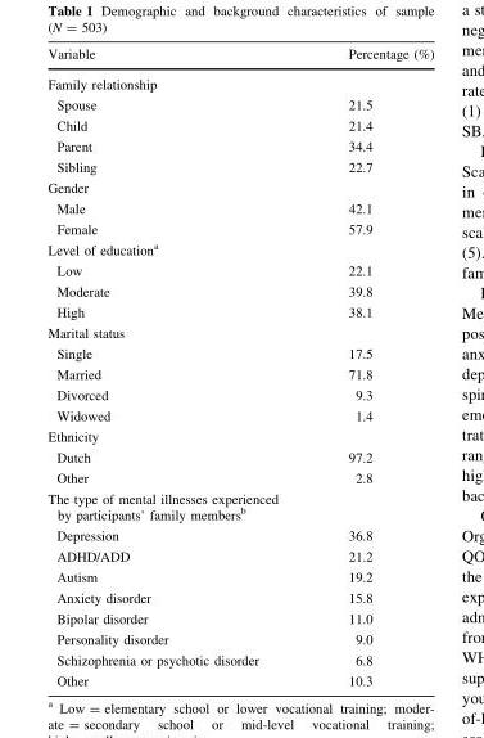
<table><thead><tr><td>Variable</td><td>Percentage (%)</td></tr></thead><tbody><tr><td colspan="2">Family relationship</td></tr><tr><td>Spouse</td><td>21.5</td></tr><tr><td>Child</td><td>21.4</td></tr><tr><td>Parent</td><td>34.4</td></tr><tr><td>Sibling</td><td>22.7</td></tr><tr><td colspan="2">Gender</td></tr><tr><td>Male</td><td>42.1</td></tr><tr><td>Female</td><td>57.9</td></tr><tr><td colspan="2">Level of education<sup>a</sup></td></tr><tr><td>Low</td><td>22.1</td></tr><tr><td>Moderate</td><td>39.8</td></tr><tr><td>High</td><td>38.1</td></tr><tr><td colspan="2">Marital status</td></tr><tr><td>Single</td><td>17.5</td></tr><tr><td>Married</td><td>71.8</td></tr><tr><td>Divorced</td><td>9.3</td></tr><tr><td>Widowed</td><td>1.4</td></tr><tr><td colspan="2">Ethnicity</td></tr><tr><td>Dutch</td><td>97.2</td></tr><tr><td>Other</td><td>2.8</td></tr><tr><td colspan="2">The type of mental illnesses experienced by participants’ family members<sup>b</sup></td></tr><tr><td>Depression</td><td>36.8</td></tr><tr><td>ADHD/ADD</td><td>21.2</td></tr><tr><td>Autism</td><td>19.2</td></tr><tr><td>Anxiety disorder</td><td>15.8</td></tr><tr><td>Bipolar disorder</td><td>11.0</td></tr><tr><td>Personality disorder</td><td>9.0</td></tr><tr><td>Schizophrenia or psychotic disorder</td><td>6.8</td></tr><tr><td>Other</td><td>10.3</td></tr></tbody></table>